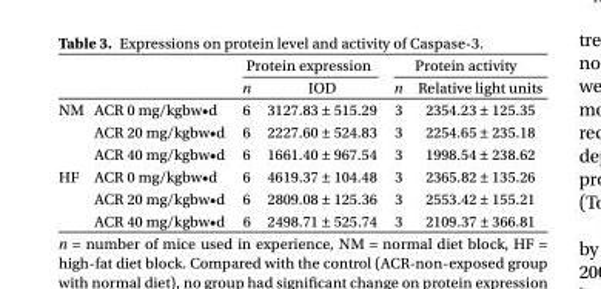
<table><thead><tr><td rowspan="2"></td><td rowspan="2"></td><td colspan="2">Protein expression</td><td colspan="2">Protein activity</td></tr><tr><td>n</td><td>IOD</td><td>n</td><td>Relative light units</td></tr></thead><tbody><tr><td rowspan="3">NM</td><td>ACR 0 mg/kgbw•d</td><td>6</td><td>3127.83 ± 515.29</td><td>3</td><td>2354.23 ± 125.35</td></tr><tr><td>ACR 20 mg/kgbw•d</td><td>6</td><td>2227.60 ± 524.83</td><td>3</td><td>2254.65 ± 235.18</td></tr><tr><td>ACR 40 mg/kgbw•d</td><td>6</td><td>1661.40 ± 967.54</td><td>3</td><td>1998.54 ± 238.62</td></tr><tr><td rowspan="3">HF</td><td>ACR 0 mg/kgbw•d</td><td>6</td><td>4619.37 ± 104.48</td><td>3</td><td>2365.82 ± 135.26</td></tr><tr><td>ACR 20 mg/kgbw•d</td><td>6</td><td>2809.08 ± 125.36</td><td>3</td><td>2553.42 ± 155.21</td></tr><tr><td>ACR 40 mg/kgbw•d</td><td>6</td><td>2498.71 ± 525.74</td><td>3</td><td>2109.37 ± 366.81</td></tr></tbody></table>